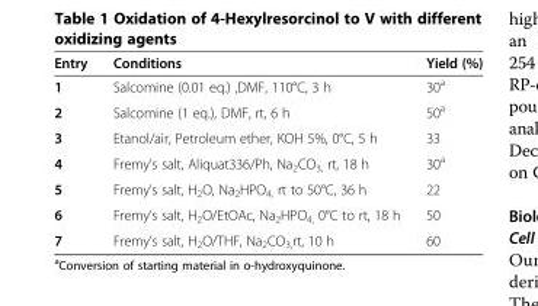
<table><thead><tr><td>Entry</td><td>Conditions</td><td>Yield (%)</td></tr></thead><tbody><tr><td>1</td><td>Salcomine (0.01 eq.) ,DMF, 110°C, 3 h</td><td>30<sup>a</sup></td></tr><tr><td>2</td><td>Salcomine (1 eq.), DMF, rt, 6 h</td><td>50<sup>a</sup></td></tr><tr><td>3</td><td>Etanol/air, Petroleum ether, KOH 5%, 0°C, 5 h</td><td>33</td></tr><tr><td>4</td><td>Fremy’s salt, Aliquat336/Ph, Na<sub>2</sub>CO<sub>3,</sub> rt, 18 h</td><td>30<sup>a</sup></td></tr><tr><td>5</td><td>Fremy’s salt, H<sub>2</sub>O, Na<sub>2</sub>HPO<sub>4,</sub> rt to 50°C, 36 h</td><td>22</td></tr><tr><td>6</td><td>Fremy’s salt, H<sub>2</sub>O/EtOAc, Na<sub>2</sub>HPO<sub>4,</sub> 0°C to rt, 18 h</td><td>50</td></tr><tr><td>7</td><td>Fremy’s salt, H<sub>2</sub>O/THF, Na<sub>2</sub>CO<sub>3,</sub>rt, 10 h</td><td>60</td></tr></tbody></table>